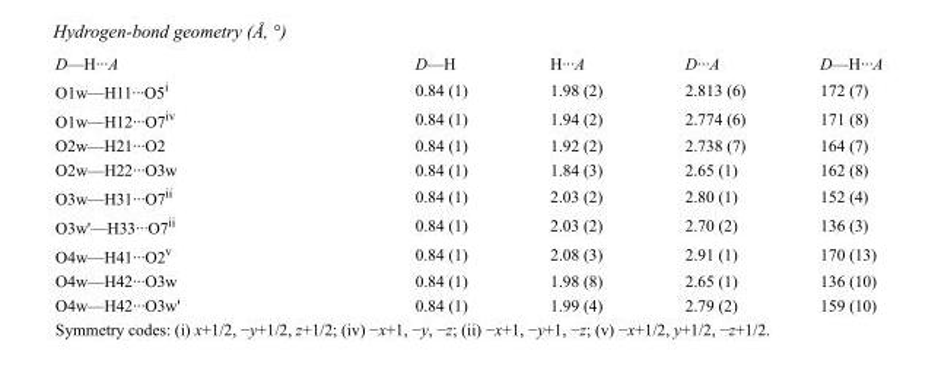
<table><tbody><tr><td>D—H···A</td><td>D—H</td><td>H···A</td><td>D···A</td><td>D—H···A</td></tr><tr><td>O1w—H11···O5<sup>i</sup></td><td>0.84 (1)</td><td>1.98 (2)</td><td>2.813 (6)</td><td>172 (7)</td></tr><tr><td>O1w—H12···O7<sup>iv</sup></td><td>0.84 (1)</td><td>1.94 (2)</td><td>2.774 (6)</td><td>171 (8)</td></tr><tr><td>O2w—H21···O2</td><td>0.84 (1)</td><td>1.92 (2)</td><td>2.738 (7)</td><td>164 (7)</td></tr><tr><td>O2w—H22···O3w</td><td>0.84 (1)</td><td>1.84 (3)</td><td>2.65 (1)</td><td>162 (8)</td></tr><tr><td>O3w—H31···O7<sup>ii</sup></td><td>0.84 (1)</td><td>2.03 (2)</td><td>2.80 (1)</td><td>152 (4)</td></tr><tr><td>O3w&#x27;—H33···O7<sup>ii</sup></td><td>0.84 (1)</td><td>2.03 (2)</td><td>2.70 (2)</td><td>136 (3)</td></tr><tr><td>O4w—H41···O2<sup>v</sup></td><td>0.84 (1)</td><td>2.08 (3)</td><td>2.91 (1)</td><td>170 (13)</td></tr><tr><td>O4w—H42···O3w</td><td>0.84 (1)</td><td>1.98 (8)</td><td>2.65 (1)</td><td>136 (10)</td></tr><tr><td>O4w—H42···O3w&#x27;</td><td>0.84 (1)</td><td>1.99 (4)</td><td>2.79 (2)</td><td>159 (10)</td></tr></tbody></table>